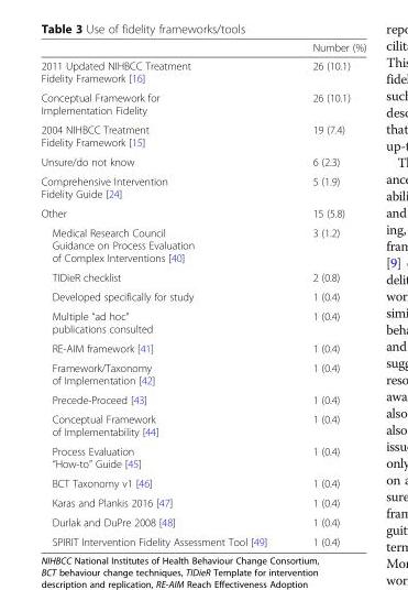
<table><thead><tr><td></td><td>Number (%)</td></tr></thead><tbody><tr><td>2011 Updated NIHBCC Treatment Fidelity Framework [16]</td><td>26 (10.1)</td></tr><tr><td>Conceptual Framework for Implementation Fidelity</td><td>26 (10.1)</td></tr><tr><td>2004 NIHBCC Treatment Fidelity Framework [15]</td><td>19 (7.4)</td></tr><tr><td>Unsure/do not know</td><td>6 (2.3)</td></tr><tr><td>Comprehensive Intervention Fidelity Guide [24]</td><td>5 (1.9)</td></tr><tr><td>Other</td><td>15 (5.8)</td></tr><tr><td>Medical Research Council Guidance on Process Evaluation of Complex Interventions [40]</td><td>3 (1.2)</td></tr><tr><td>TIDieR checklist</td><td>2 (0.8)</td></tr><tr><td>Developed specifically for study</td><td>1 (0.4)</td></tr><tr><td>Multiple “ad hoc” publications consulted</td><td>1 (0.4)</td></tr><tr><td>RE-AIM framework [41]</td><td>1 (0.4)</td></tr><tr><td>Framework/Taxonomy of Implementation [42]</td><td>1 (0.4)</td></tr><tr><td>Precede-Proceed [43]</td><td>1 (0.4)</td></tr><tr><td>Conceptual Framework of Implementability [44]</td><td>1 (0.4)</td></tr><tr><td>Process Evaluation “How-to” Guide [45]</td><td>1 (0.4)</td></tr><tr><td>BCT Taxonomy v1 [46]</td><td>1 (0.4)</td></tr><tr><td>Karas and Plankis 2016 [47]</td><td>1 (0.4)</td></tr><tr><td>Durlak and DuPre 2008 [48]</td><td>1 (0.4)</td></tr><tr><td>SPIRIT Intervention Fidelity Assessment Tool [49]</td><td>1 (0.4)</td></tr></tbody></table>